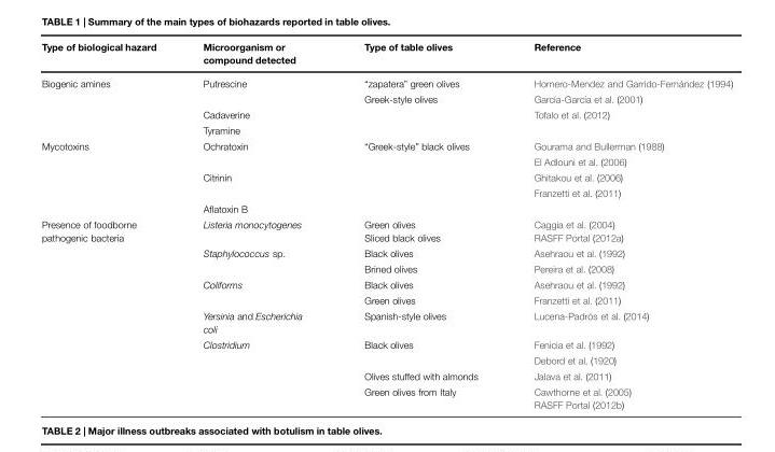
<table><thead><tr><td>Type of biological hazard</td><td>Microorganism or compound detected</td><td>Type of table olives</td><td>Reference</td></tr></thead><tbody><tr><td rowspan="4">Biogenic amines</td><td>Putrescine</td><td>“zapatera” green olives</td><td>Hornero-Mendez and Garrido-Fernández (1994)</td></tr><tr><td></td><td>Greek-style olives</td><td>García-García et al. (2001)</td></tr><tr><td>Cadaverine</td><td></td><td>Tofalo et al. (2012)</td></tr><tr><td>Tyramine</td><td></td><td></td></tr><tr><td rowspan="5">Mycotoxins</td><td>Ochratoxin</td><td>“Greek-style” black olives</td><td>Gourama and Bullerman (1988)</td></tr><tr><td></td><td></td><td>El Adlouni et al. (2006)</td></tr><tr><td>Citrinin</td><td></td><td>Ghitakou et al. (2006)</td></tr><tr><td></td><td></td><td>Franzetti et al. (2011)</td></tr><tr><td>Aflatoxin B</td><td></td><td></td></tr><tr><td rowspan="10">Presence of foodborne pathogenic bacteria</td><td>Listeria monocytogenes</td><td>Green olives Sliced black olives</td><td>Caggia et al. (2004) RASFF Portal (2012a)</td></tr><tr><td>Staphylococcus sp.</td><td>Black olives</td><td>Asehraou et al. (1992)</td></tr><tr><td></td><td>Brined olives</td><td>Pereira et al. (2008)</td></tr><tr><td>Coliforms</td><td>Black olives</td><td>Asehraou et al. (1992)</td></tr><tr><td></td><td>Green olives</td><td>Franzetti et al. (2011)</td></tr><tr><td>Yersinia and Escherichia coli</td><td>Spanish-style olives</td><td>Lucena-Padrós et al. (2014)</td></tr><tr><td>Clostridium</td><td>Black olives</td><td>Fenicia et al. (1992)</td></tr><tr><td></td><td></td><td>Debord et al. (1920)</td></tr><tr><td></td><td>Olives stuffed with almonds</td><td>Jalava et al. (2011)</td></tr><tr><td></td><td>Green olives from Italy</td><td>Cawthorne et al. (2005) RASFF Portal (2012b)</td></tr></tbody></table>